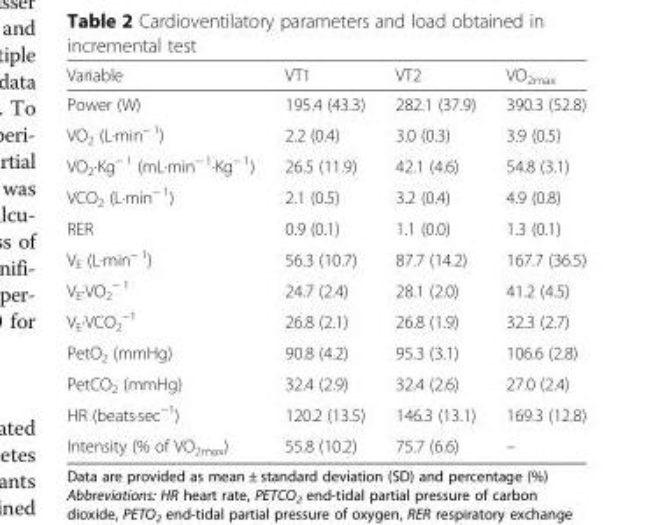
<table><thead><tr><td>Variable</td><td>VT1</td><td>VT2</td><td>VO<sub>2max</sub></td></tr></thead><tbody><tr><td>Power (W)</td><td>195.4 (43.3)</td><td>282.1 (37.9)</td><td>390.3 (52.8)</td></tr><tr><td>VO<sub>2</sub> (L·min<sup>− 1</sup>)</td><td>2.2 (0.4)</td><td>3.0 (0.3)</td><td>3.9 (0.5)</td></tr><tr><td>VO<sub>2</sub>·Kg<sup>− 1</sup> (mL·min<sup>− 1</sup>·Kg<sup>− 1</sup>)</td><td>26.5 (11.9)</td><td>42.1 (4.6)</td><td>54.8 (3.1)</td></tr><tr><td>VCO<sub>2</sub> (L·min<sup>− 1</sup>)</td><td>2.1 (0.5)</td><td>3.2 (0.4)</td><td>4.9 (0.8)</td></tr><tr><td>RER</td><td>0.9 (0.1)</td><td>1.1 (0.0)</td><td>1.3 (0.1)</td></tr><tr><td>V<sub>E</sub> (L·min<sup>− 1</sup>)</td><td>56.3 (10.7)</td><td>87.7 (14.2)</td><td>167.7 (36.5)</td></tr><tr><td>V<sub>E</sub>·VO<sub>2</sub> <sup>− 1</sup></td><td>24.7 (2.4)</td><td>28.1 (2.0)</td><td>41.2 (4.5)</td></tr><tr><td>V<sub>E</sub>·VCO<sub>2</sub> <sup>−1</sup></td><td>26.8 (2.1)</td><td>26.8 (1.9)</td><td>32.3 (2.7)</td></tr><tr><td>PetO<sub>2</sub> (mmHg)</td><td>90.8 (4.2)</td><td>95.3 (3.1)</td><td>106.6 (2.8)</td></tr><tr><td>PetCO<sub>2</sub> (mmHg)</td><td>32.4 (2.9)</td><td>32.4 (2.6)</td><td>27.0 (2.4)</td></tr><tr><td>HR (beats·sec<sup>−1</sup>)</td><td>120.2 (13.5)</td><td>146.3 (13.1)</td><td>169.3 (12.8)</td></tr><tr><td>Intensity (% of VO<sub>2max</sub>)</td><td>55.8 (10.2)</td><td>75.7 (6.6)</td><td>–</td></tr></tbody></table>